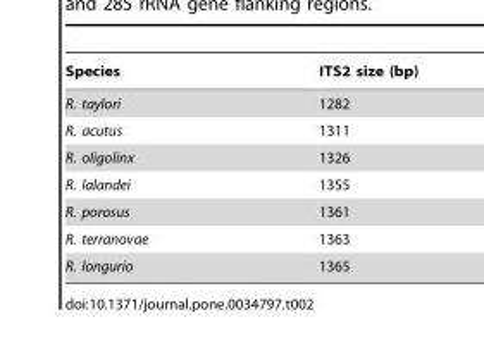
<table><thead><tr><td>Species</td><td>ITS2 size (bp)</td></tr></thead><tbody><tr><td>R. taylori</td><td>1282</td></tr><tr><td>R. acutus</td><td>1311</td></tr><tr><td>R. oligolinx</td><td>1326</td></tr><tr><td>R. lalandei</td><td>1355</td></tr><tr><td>R. porosus</td><td>1361</td></tr><tr><td>R. terranovae</td><td>1363</td></tr><tr><td>R. longurio</td><td>1365</td></tr></tbody></table>